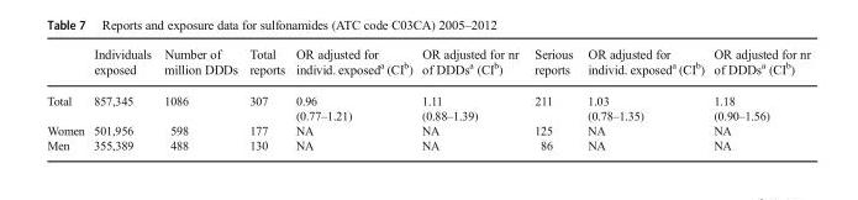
<table><thead><tr><td></td><td>Individuals exposed</td><td>Number of million DDDs</td><td>Total reports</td><td>OR adjusted for individ. exposed<sup>a</sup> (CI<sup>b</sup>)</td><td>OR adjusted for nr of DDDs<sup>a</sup> (CI<sup>b</sup>)</td><td>Serious reports</td><td>OR adjusted for individ. exposed<sup>a</sup> (CI<sup>b</sup>)</td><td>OR adjusted for nr of DDDs<sup>a</sup> (CI<sup>b</sup>)</td></tr></thead><tbody><tr><td>Total</td><td>857,345</td><td>1086</td><td>307</td><td>0.96 (0.77–1.21)</td><td>1.11 (0.88–1.39)</td><td>211</td><td>1.03 (0.78–1.35)</td><td>1.18 (0.90–1.56)</td></tr><tr><td>Women</td><td>501,956</td><td>598</td><td>177</td><td>NA</td><td>NA</td><td>125</td><td>NA</td><td>NA</td></tr><tr><td>Men</td><td>355,389</td><td>488</td><td>130</td><td>NA</td><td>NA</td><td>86</td><td>NA</td><td>NA</td></tr></tbody></table>